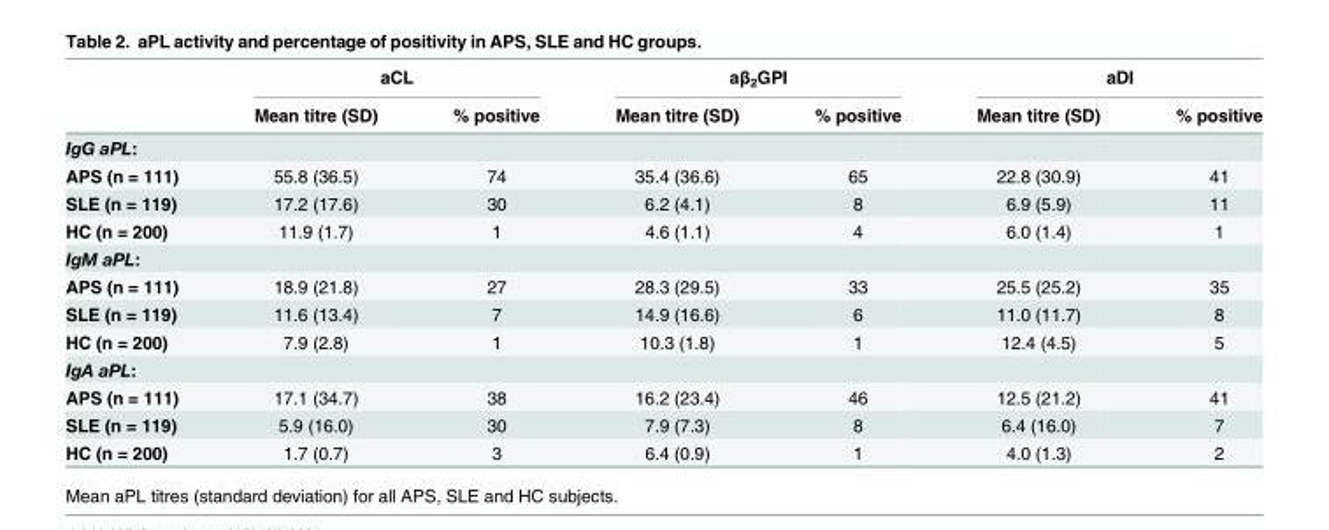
<table><thead><tr><td rowspan="2"></td><td colspan="2">aCL</td><td colspan="2">aβ<sub>2</sub>GPI</td><td colspan="2">aDI</td></tr><tr><td>Mean titre (SD)</td><td>% positive</td><td>Mean titre (SD)</td><td>% positive</td><td>Mean titre (SD)</td><td>% positive</td></tr></thead><tbody><tr><td colspan="7">IgG aPL:</td></tr><tr><td>APS (n = 111)</td><td>55.8 (36.5)</td><td>74</td><td>35.4 (36.6)</td><td>65</td><td>22.8 (30.9)</td><td>41</td></tr><tr><td>SLE (n = 119)</td><td>17.2 (17.6)</td><td>30</td><td>6.2 (4.1)</td><td>8</td><td>6.9 (5.9)</td><td>11</td></tr><tr><td>HC (n = 200)</td><td>11.9 (1.7)</td><td>1</td><td>4.6 (1.1)</td><td>4</td><td>6.0 (1.4)</td><td>1</td></tr><tr><td colspan="7">IgM aPL:</td></tr><tr><td>APS (n = 111)</td><td>18.9 (21.8)</td><td>27</td><td>28.3 (29.5)</td><td>33</td><td>25.5 (25.2)</td><td>35</td></tr><tr><td>SLE (n = 119)</td><td>11.6 (13.4)</td><td>7</td><td>14.9 (16.6)</td><td>6</td><td>11.0 (11.7)</td><td>8</td></tr><tr><td>HC (n = 200)</td><td>7.9 (2.8)</td><td>1</td><td>10.3 (1.8)</td><td>1</td><td>12.4 (4.5)</td><td>5</td></tr><tr><td colspan="7">IgA aPL:</td></tr><tr><td>APS (n = 111)</td><td>17.1 (34.7)</td><td>38</td><td>16.2 (23.4)</td><td>46</td><td>12.5 (21.2)</td><td>41</td></tr><tr><td>SLE (n = 119)</td><td>5.9 (16.0)</td><td>30</td><td>7.9 (7.3)</td><td>8</td><td>6.4 (16.0)</td><td>7</td></tr><tr><td>HC (n = 200)</td><td>1.7 (0.7)</td><td>3</td><td>6.4 (0.9)</td><td>1</td><td>4.0 (1.3)</td><td>2</td></tr></tbody></table>